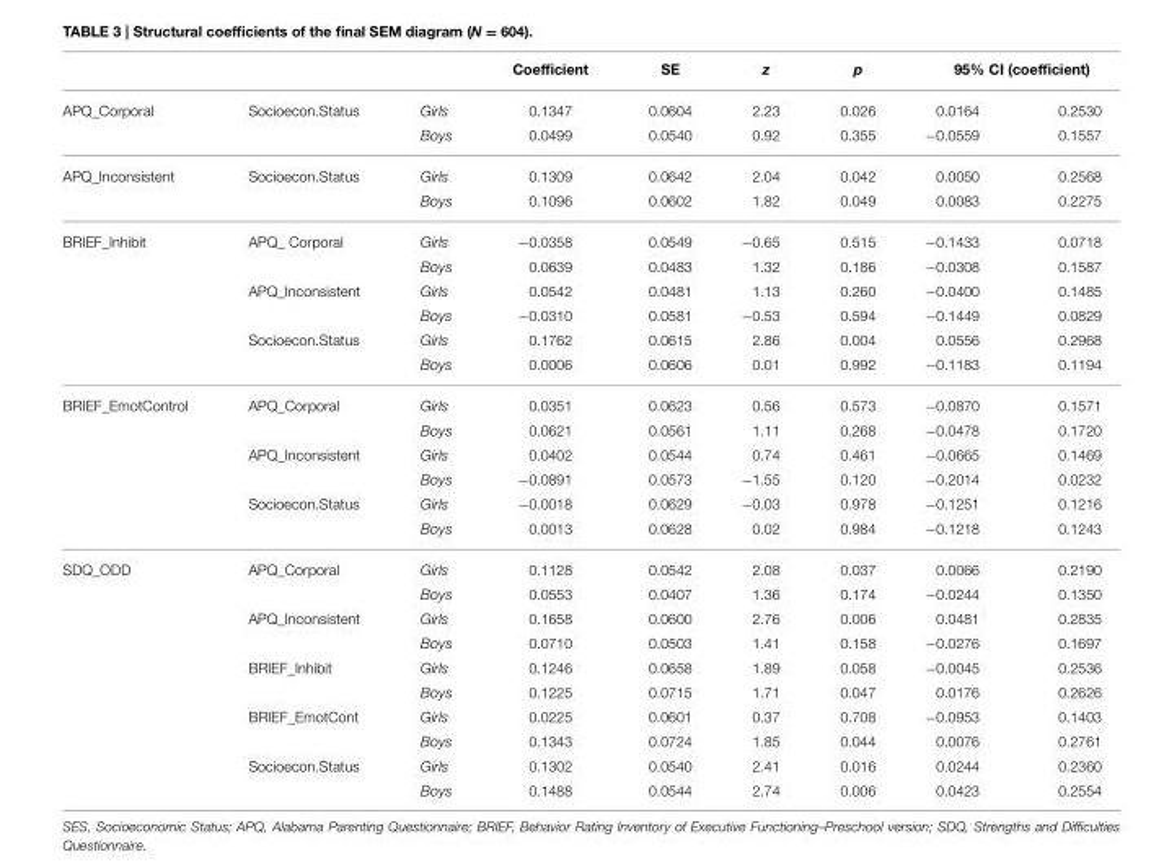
<table><thead><tr><td rowspan="2">APQ_Corporal</td><td rowspan="2">Socioecon.Status</td><td rowspan="2">Girls</td><td rowspan="2">Coefficient 0.1347</td><td rowspan="2">SE 0.0604</td><td rowspan="2">z 2.23</td><td rowspan="2">p 0.026</td><td colspan="2">95% CI (coefficient)</td></tr><tr><td>0.0164</td><td>0.2530</td></tr></thead><tbody><tr><td></td><td></td><td>Boys</td><td>0.0499</td><td>0.0540</td><td>0.92</td><td>0.355</td><td>−0.0559</td><td>0.1557</td></tr><tr><td rowspan="2">APQ_Inconsistent</td><td>Socioecon.Status</td><td>Girls</td><td>0.1309</td><td>0.0642</td><td>2.04</td><td>0.042</td><td>0.0050</td><td>0.2568</td></tr><tr><td></td><td>Boys</td><td>0.1096</td><td>0.0602</td><td>1.82</td><td>0.049</td><td>0.0083</td><td>0.2275</td></tr><tr><td rowspan="6">BRIEF_Inhibit</td><td>APQ_ Corporal</td><td>Girls</td><td>−0.0358</td><td>0.0549</td><td>−0.65</td><td>0.515</td><td>−0.1433</td><td>0.0718</td></tr><tr><td></td><td>Boys</td><td>0.0639</td><td>0.0483</td><td>1.32</td><td>0.186</td><td>−0.0308</td><td>0.1587</td></tr><tr><td>APQ_Inconsistent</td><td>Girls</td><td>0.0542</td><td>0.0481</td><td>1.13</td><td>0.260</td><td>−0.0400</td><td>0.1485</td></tr><tr><td></td><td>Boys</td><td>−0.0310</td><td>0.0581</td><td>−0.53</td><td>0.594</td><td>−0.1449</td><td>0.0829</td></tr><tr><td>Socioecon.Status</td><td>Girls</td><td>0.1762</td><td>0.0615</td><td>2.86</td><td>0.004</td><td>0.0556</td><td>0.2968</td></tr><tr><td></td><td>Boys</td><td>0.0006</td><td>0.0606</td><td>0.01</td><td>0.992</td><td>−0.1183</td><td>0.1194</td></tr><tr><td rowspan="6">BRIEF_EmotControl</td><td>APQ_Corporal</td><td>Girls</td><td>0.0351</td><td>0.0623</td><td>0.56</td><td>0.573</td><td>−0.0870</td><td>0.1571</td></tr><tr><td></td><td>Boys</td><td>0.0621</td><td>0.0561</td><td>1.11</td><td>0.268</td><td>−0.0478</td><td>0.1720</td></tr><tr><td>APQ_Inconsistent</td><td>Girls</td><td>0.0402</td><td>0.0544</td><td>0.74</td><td>0.461</td><td>−0.0665</td><td>0.1469</td></tr><tr><td></td><td>Boys</td><td>−0.0891</td><td>0.0573</td><td>−1.55</td><td>0.120</td><td>−0.2014</td><td>0.0232</td></tr><tr><td>Socioecon.Status</td><td>Girls</td><td>−0.0018</td><td>0.0629</td><td>−0.03</td><td>0.978</td><td>−0.1251</td><td>0.1216</td></tr><tr><td></td><td>Boys</td><td>0.0013</td><td>0.0628</td><td>0.02</td><td>0.984</td><td>−0.1218</td><td>0.1243</td></tr><tr><td rowspan="10">SDQ_ODD</td><td>APQ_Corporal</td><td>Girls</td><td>0.1128</td><td>0.0542</td><td>2.08</td><td>0.037</td><td>0.0066</td><td>0.2190</td></tr><tr><td></td><td>Boys</td><td>0.0553</td><td>0.0407</td><td>1.36</td><td>0.174</td><td>−0.0244</td><td>0.1350</td></tr><tr><td>APQ_Inconsistent</td><td>Girls</td><td>0.1658</td><td>0.0600</td><td>2.76</td><td>0.006</td><td>0.0481</td><td>0.2835</td></tr><tr><td></td><td>Boys</td><td>0.0710</td><td>0.0503</td><td>1.41</td><td>0.158</td><td>−0.0276</td><td>0.1697</td></tr><tr><td>BRIEF_Inhibit</td><td>Girls</td><td>0.1246</td><td>0.0658</td><td>1.89</td><td>0.058</td><td>−0.0045</td><td>0.2536</td></tr><tr><td></td><td>Boys</td><td>0.1225</td><td>0.0715</td><td>1.71</td><td>0.047</td><td>0.0176</td><td>0.2626</td></tr><tr><td>BRIEF_EmotCont</td><td>Girls</td><td>0.0225</td><td>0.0601</td><td>0.37</td><td>0.708</td><td>−0.0953</td><td>0.1403</td></tr><tr><td></td><td>Boys</td><td>0.1343</td><td>0.0724</td><td>1.85</td><td>0.044</td><td>0.0076</td><td>0.2761</td></tr><tr><td>Socioecon.Status</td><td>Girls</td><td>0.1302</td><td>0.0540</td><td>2.41</td><td>0.016</td><td>0.0244</td><td>0.2360</td></tr><tr><td></td><td>Boys</td><td>0.1488</td><td>0.0544</td><td>2.74</td><td>0.006</td><td>0.0423</td><td>0.2554</td></tr></tbody></table>